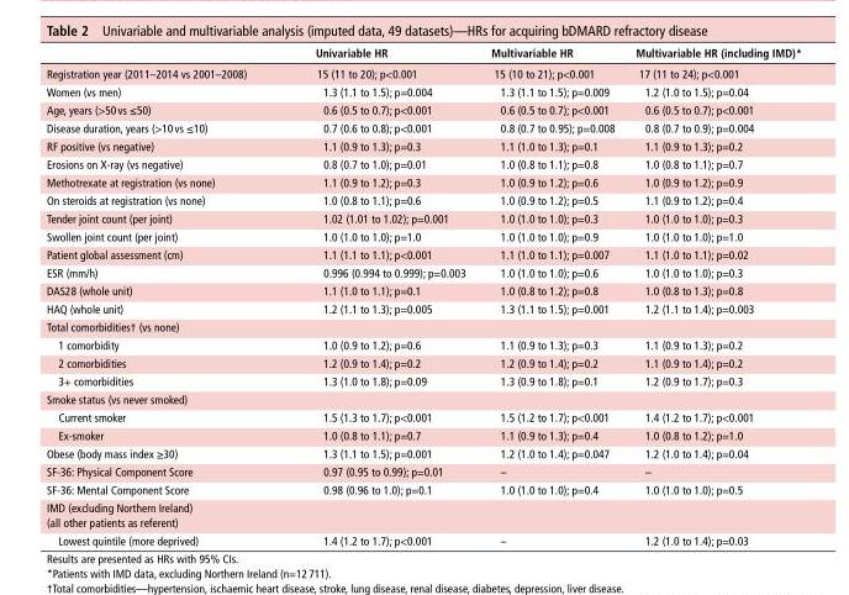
<table><thead><tr><td></td><td>univariable Hr</td><td>Multivariable Hr</td><td>Multivariable Hr (including IMd)*</td></tr></thead><tbody><tr><td>Registration year (2011–2014 vs 2001–2008)</td><td>15 (11 to 20); p&lt;0.001</td><td>15 (10 to 21); p&lt;0.001</td><td>17 (11 to 24); p&lt;0.001</td></tr><tr><td>Women (vs men)</td><td>1.3 (1.1 to 1.5); p=0.004</td><td>1.3 (1.1 to 1.5); p=0.009</td><td>1.2 (1.0 to 1.5); p=0.04</td></tr><tr><td>Age, years (&gt;50 vs ≤50)</td><td>0.6 (0.5 to 0.7); p&lt;0.001</td><td>0.6 (0.5 to 0.7); p&lt;0.001</td><td>0.6 (0.5 to 0.7); p&lt;0.001</td></tr><tr><td>Disease duration, years (&gt;10 vs ≤10)</td><td>0.7 (0.6 to 0.8); p&lt;0.001</td><td>0.8 (0.7 to 0.95); p=0.008</td><td>0.8 (0.7 to 0.9); p=0.004</td></tr><tr><td>RF positive (vs negative)</td><td>1.1 (0.9 to 1.3); p=0.3</td><td>1.1 (1.0 to 1.3); p=0.1</td><td>1.1 (0.9 to 1.3); p=0.2</td></tr><tr><td>Erosions on X-ray (vs negative)</td><td>0.8 (0.7 to 1.0); p=0.01</td><td>1.0 (0.8 to 1.1); p=0.8</td><td>1.0 (0.8 to 1.1); p=0.7</td></tr><tr><td>Methotrexate at registration (vs none)</td><td>1.1 (0.9 to 1.2); p=0.3</td><td>1.0 (0.9 to 1.2); p=0.6</td><td>1.0 (0.9 to 1.2); p=0.9</td></tr><tr><td>On steroids at registration (vs none)</td><td>1.0 (0.8 to 1.1); p=0.6</td><td>1.0 (0.9 to 1.2); p=0.5</td><td>1.1 (0.9 to 1.2); p=0.4</td></tr><tr><td>Tender joint count (per joint)</td><td>1.02 (1.01 to 1.02); p=0.001</td><td>1.0 (1.0 to 1.0); p=0.3</td><td>1.0 (1.0 to 1.0); p=0.3</td></tr><tr><td>Swollen joint count (per joint)</td><td>1.0 (1.0 to 1.0); p=1.0</td><td>1.0 (1.0 to 1.0); p=0.9</td><td>1.0 (1.0 to 1.0); p=1.0</td></tr><tr><td>Patient global assessment (cm)</td><td>1.1 (1.1 to 1.1); p&lt;0.001</td><td>1.1 (1.0 to 1.1); p=0.007</td><td>1.1 (1.0 to 1.1); p=0.02</td></tr><tr><td>ESR (mm/h)</td><td>0.996 (0.994 to 0.999); p=0.003</td><td>1.0 (1.0 to 1.0); p=0.6</td><td>1.0 (1.0 to 1.0); p=0.3</td></tr><tr><td>DAS28 (whole unit)</td><td>1.1 (1.0 to 1.1); p=0.1</td><td>1.0 (0.8 to 1.2); p=0.8</td><td>1.0 (0.8 to 1.3); p=0.8</td></tr><tr><td>HAQ (whole unit)</td><td>1.2 (1.1 to 1.3); p=0.005</td><td>1.3 (1.1 to 1.5); p=0.001</td><td>1.2 (1.1 to 1.4); p=0.003</td></tr><tr><td colspan="4">Total comorbidities† (vs none)</td></tr><tr><td>1 comorbidity</td><td>1.0 (0.9 to 1.2); p=0.6</td><td>1.1 (0.9 to 1.3); p=0.3</td><td>1.1 (0.9 to 1.3); p=0.2</td></tr><tr><td>2 comorbidities</td><td>1.2 (0.9 to 1.4); p=0.2</td><td>1.2 (0.9 to 1.4); p=0.2</td><td>1.1 (0.9 to 1.4); p=0.2</td></tr><tr><td>3+ comorbidities</td><td>1.3 (1.0 to 1.8); p=0.09</td><td>1.3 (0.9 to 1.8); p=0.1</td><td>1.2 (0.9 to 1.7); p=0.3</td></tr><tr><td colspan="4">Smoke status (vs never smoked)</td></tr><tr><td>Current smoker</td><td>1.5 (1.3 to 1.7); p&lt;0.001</td><td>1.5 (1.2 to 1.7); p&lt;0.001</td><td>1.4 (1.2 to 1.7); p&lt;0.001</td></tr><tr><td>Ex-smoker</td><td>1.0 (0.8 to 1.1); p=0.7</td><td>1.1 (0.9 to 1.3); p=0.4</td><td>1.0 (0.8 to 1.2); p=1.0</td></tr><tr><td>Obese (body mass index ≥30)</td><td>1.3 (1.1 to 1.5); p=0.001</td><td>1.2 (1.0 to 1.4); p=0.047</td><td>1.2 (1.0 to 1.4); p=0.04</td></tr><tr><td>SF-36: Physical Component Score</td><td>0.97 (0.95 to 0.99); p=0.01</td><td>–</td><td>–</td></tr><tr><td>SF-36: Mental Component Score</td><td>0.98 (0.96 to 1.0); p=0.1</td><td>1.0 (1.0 to 1.0); p=0.4</td><td>1.0 (1.0 to 1.0); p=0.5</td></tr><tr><td colspan="4">IMD (excluding Northern Ireland) (all other patients as referent)</td></tr><tr><td>Lowest quintile (more deprived)</td><td>1.4 (1.2 to 1.7); p&lt;0.001</td><td>–</td><td>1.2 (1.0 to 1.4); p=0.03</td></tr></tbody></table>